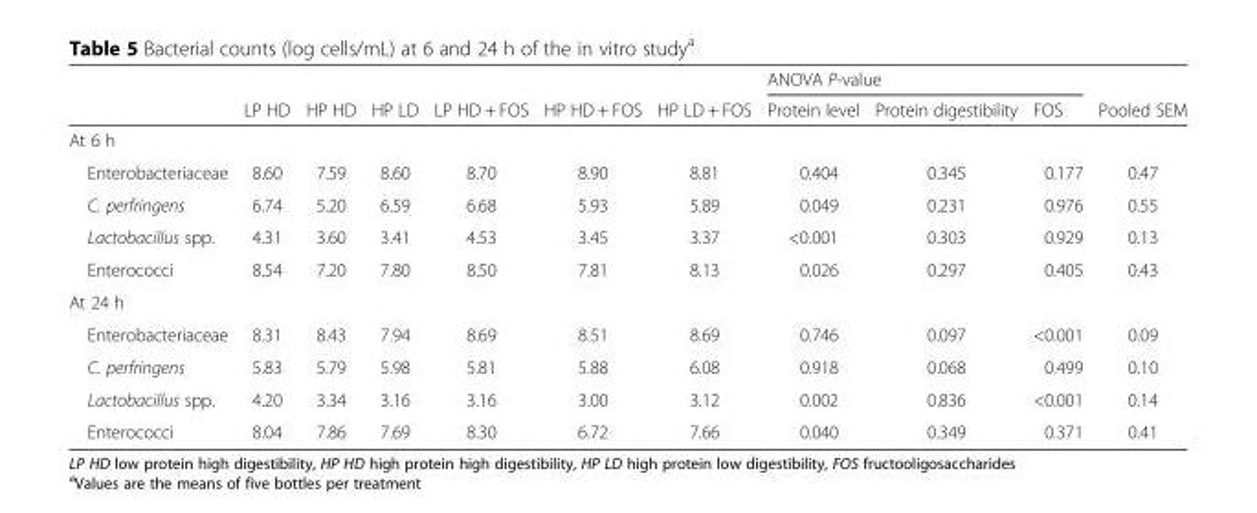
<table><thead><tr><td rowspan="2"></td><td rowspan="2">LP HD</td><td rowspan="2">HP HD</td><td rowspan="2">HP LD</td><td rowspan="2">LP HD + FOS</td><td rowspan="2">HP HD + FOS</td><td rowspan="2">HP LD + FOS</td><td colspan="3">ANOVA P-value</td><td rowspan="2">Pooled SEM</td></tr><tr><td>Protein level</td><td>Protein digestibility</td><td>FOS</td></tr></thead><tbody><tr><td colspan="11">At 6 h</td></tr><tr><td>Enterobacteriaceae</td><td>8.60</td><td>7.59</td><td>8.60</td><td>8.70</td><td>8.90</td><td>8.81</td><td>0.404</td><td>0.345</td><td>0.177</td><td>0.47</td></tr><tr><td>C. perfringens</td><td>6.74</td><td>5.20</td><td>6.59</td><td>6.68</td><td>5.93</td><td>5.89</td><td>0.049</td><td>0.231</td><td>0.976</td><td>0.55</td></tr><tr><td>Lactobacillus spp.</td><td>4.31</td><td>3.60</td><td>3.41</td><td>4.53</td><td>3.45</td><td>3.37</td><td>&lt;0.001</td><td>0.303</td><td>0.929</td><td>0.13</td></tr><tr><td>Enterococci</td><td>8.54</td><td>7.20</td><td>7.80</td><td>8.50</td><td>7.81</td><td>8.13</td><td>0.026</td><td>0.297</td><td>0.405</td><td>0.43</td></tr><tr><td colspan="11">At 24 h</td></tr><tr><td>Enterobacteriaceae</td><td>8.31</td><td>8.43</td><td>7.94</td><td>8.69</td><td>8.51</td><td>8.69</td><td>0.746</td><td>0.097</td><td>&lt;0.001</td><td>0.09</td></tr><tr><td>C. perfringens</td><td>5.83</td><td>5.79</td><td>5.98</td><td>5.81</td><td>5.88</td><td>6.08</td><td>0.918</td><td>0.068</td><td>0.499</td><td>0.10</td></tr><tr><td>Lactobacillus spp.</td><td>4.20</td><td>3.34</td><td>3.16</td><td>3.16</td><td>3.00</td><td>3.12</td><td>0.002</td><td>0.836</td><td>&lt;0.001</td><td>0.14</td></tr><tr><td>Enterococci</td><td>8.04</td><td>7.86</td><td>7.69</td><td>8.30</td><td>6.72</td><td>7.66</td><td>0.040</td><td>0.349</td><td>0.371</td><td>0.41</td></tr></tbody></table>